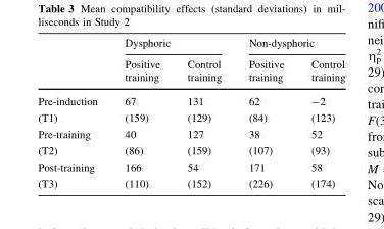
<table><thead><tr><td rowspan="2"></td><td colspan="2">Dysphoric</td><td colspan="2">Non-dysphoric</td></tr><tr><td>Positive training</td><td>Control training</td><td>Positive training</td><td>Control training</td></tr></thead><tbody><tr><td>Pre-induction</td><td>67</td><td>131</td><td>62</td><td>-2</td></tr><tr><td>(T1)</td><td>(159)</td><td>(129)</td><td>(84)</td><td>(123)</td></tr><tr><td>Pre-training</td><td>40</td><td>127</td><td>38</td><td>52</td></tr><tr><td>(T2)</td><td>(86)</td><td>(159)</td><td>(107)</td><td>(93)</td></tr><tr><td>Post-training</td><td>166</td><td>54</td><td>171</td><td>58</td></tr><tr><td>(T3)</td><td>(110)</td><td>(152)</td><td>(226)</td><td>(174)</td></tr></tbody></table>